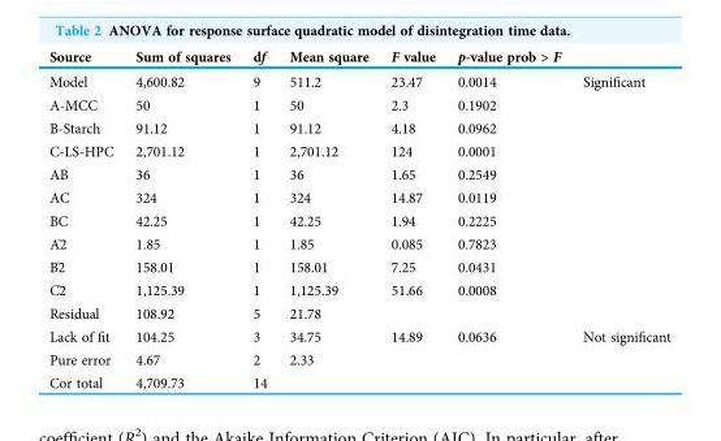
<table><thead><tr><td>Source</td><td>Sum of squares</td><td>df</td><td>Mean square</td><td>F value</td><td>p-value prob &gt; F</td><td></td></tr></thead><tbody><tr><td>Model</td><td>4,600.82</td><td>9</td><td>511.2</td><td>23.47</td><td>0.0014</td><td>Significant</td></tr><tr><td>A-MCC</td><td>50</td><td>1</td><td>50</td><td>2.3</td><td>0.1902</td><td></td></tr><tr><td>B-Starch</td><td>91.12</td><td>1</td><td>91.12</td><td>4.18</td><td>0.0962</td><td></td></tr><tr><td>C-LS-HPC</td><td>2,701.12</td><td>1</td><td>2,701.12</td><td>124</td><td>0.0001</td><td></td></tr><tr><td>AB</td><td>36</td><td>1</td><td>36</td><td>1.65</td><td>0.2549</td><td></td></tr><tr><td>AC</td><td>324</td><td>1</td><td>324</td><td>14.87</td><td>0.0119</td><td></td></tr><tr><td>BC</td><td>42.25</td><td>1</td><td>42.25</td><td>1.94</td><td>0.2225</td><td></td></tr><tr><td>A^2</td><td>1.85</td><td>1</td><td>1.85</td><td>0.085</td><td>0.7823</td><td></td></tr><tr><td>B^2</td><td>158.01</td><td>1</td><td>158.01</td><td>7.25</td><td>0.0431</td><td></td></tr><tr><td>C^2</td><td>1,125.39</td><td>1</td><td>1,125.39</td><td>51.66</td><td>0.0008</td><td></td></tr><tr><td>Residual</td><td>108.92</td><td>5</td><td>21.78</td><td></td><td></td><td></td></tr><tr><td>Lack of fit</td><td>104.25</td><td>3</td><td>34.75</td><td>14.89</td><td>0.0636</td><td>Not significant</td></tr><tr><td>Pure error</td><td>4.67</td><td>2</td><td>2.33</td><td></td><td></td><td></td></tr><tr><td>Cor total</td><td>4,709.73</td><td>14</td><td></td><td></td><td></td><td></td></tr></tbody></table>